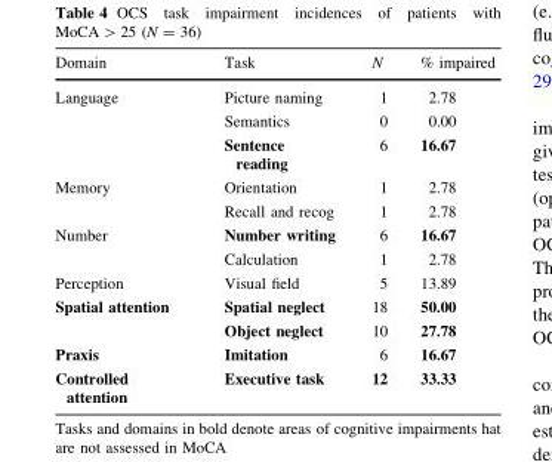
<table><thead><tr><td>Domain</td><td>Task</td><td>N</td><td>% impaired</td></tr></thead><tbody><tr><td rowspan="3">Language</td><td>Picture naming</td><td>1</td><td>2.78</td></tr><tr><td>Semantics</td><td>0</td><td>0.00</td></tr><tr><td>Sentence reading</td><td>6</td><td>16.67</td></tr><tr><td rowspan="2">Memory</td><td>Orientation</td><td>1</td><td>2.78</td></tr><tr><td>Recall and recog</td><td>1</td><td>2.78</td></tr><tr><td rowspan="2">Number</td><td>Number writing</td><td>6</td><td>16.67</td></tr><tr><td>Calculation</td><td>1</td><td>2.78</td></tr><tr><td>Perception</td><td>Visual field</td><td>5</td><td>13.89</td></tr><tr><td rowspan="2">Spatial attention</td><td>Spatial neglect</td><td>18</td><td>50.00</td></tr><tr><td>Object neglect</td><td>10</td><td>27.78</td></tr><tr><td>Praxis</td><td>Imitation</td><td>6</td><td>16.67</td></tr><tr><td>Controlled attention</td><td>Executive task</td><td>12</td><td>33.33</td></tr></tbody></table>